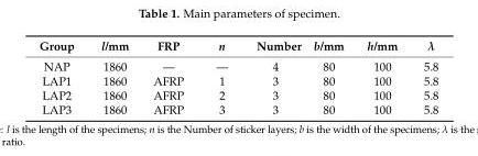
<table><thead><tr><td>Group</td><td>l/mm</td><td>FRP</td><td>n</td><td>Number</td><td>b/mm</td><td>h/mm</td><td>λ</td></tr></thead><tbody><tr><td>NAP</td><td>1860</td><td>—</td><td>—</td><td>4</td><td>80</td><td>100</td><td>5.8</td></tr><tr><td>LAP1</td><td>1860</td><td>AFRP</td><td>1</td><td>3</td><td>80</td><td>100</td><td>5.8</td></tr><tr><td>LAP2</td><td>1860</td><td>AFRP</td><td>2</td><td>3</td><td>80</td><td>100</td><td>5.8</td></tr><tr><td>LAP3</td><td>1860</td><td>AFRP</td><td>3</td><td>3</td><td>80</td><td>100</td><td>5.8</td></tr></tbody></table>